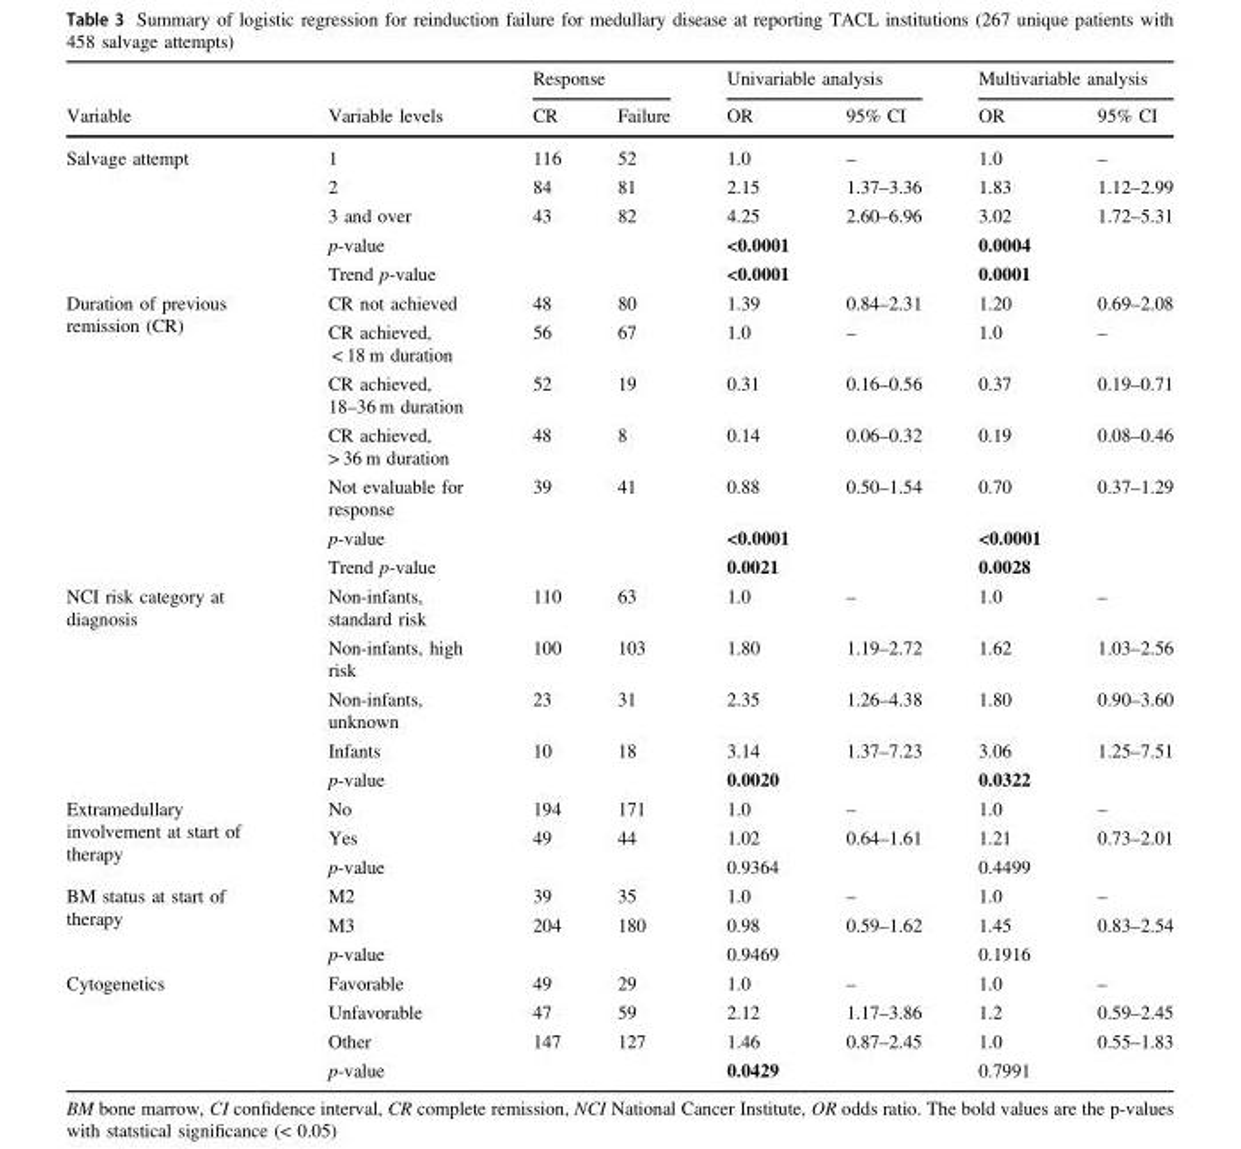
<table><thead><tr><td rowspan="2">Variable</td><td rowspan="2">Variable levels</td><td colspan="2">Response</td><td colspan="2">Univariable analysis</td><td colspan="2">Multivariable analysis</td></tr><tr><td>CR</td><td>Failure</td><td>OR</td><td>95% CI</td><td>OR</td><td>95% CI</td></tr></thead><tbody><tr><td rowspan="5">Salvage attempt</td><td>1</td><td>116</td><td>52</td><td>1.0</td><td>–</td><td>1.0</td><td>–</td></tr><tr><td>2</td><td>84</td><td>81</td><td>2.15</td><td>1.37–3.36</td><td>1.83</td><td>1.12–2.99</td></tr><tr><td>3 and over</td><td>43</td><td>82</td><td>4.25</td><td>2.60–6.96</td><td>3.02</td><td>1.72–5.31</td></tr><tr><td>p-value</td><td></td><td></td><td>&lt;0.0001</td><td></td><td>0.0004</td><td></td></tr><tr><td>Trend p-value</td><td></td><td></td><td>&lt;0.0001</td><td></td><td>0.0001</td><td></td></tr><tr><td rowspan="7">Duration of previous remission (CR)</td><td>CR not achieved</td><td>48</td><td>80</td><td>1.39</td><td>0.84–2.31</td><td>1.20</td><td>0.69–2.08</td></tr><tr><td>CR achieved, &lt; 18 m duration</td><td>56</td><td>67</td><td>1.0</td><td>–</td><td>1.0</td><td>–</td></tr><tr><td>CR achieved, 18–36 m duration</td><td>52</td><td>19</td><td>0.31</td><td>0.16–0.56</td><td>0.37</td><td>0.19–0.71</td></tr><tr><td>CR achieved, &gt; 36 m duration</td><td>48</td><td>8</td><td>0.14</td><td>0.06–0.32</td><td>0.19</td><td>0.08–0.46</td></tr><tr><td>Not evaluable for response</td><td>39</td><td>41</td><td>0.88</td><td>0.50–1.54</td><td>0.70</td><td>0.37–1.29</td></tr><tr><td>p-value</td><td></td><td></td><td>&lt;0.0001</td><td></td><td>&lt;0.0001</td><td></td></tr><tr><td>Trend p-value</td><td></td><td></td><td>0.0021</td><td></td><td>0.0028</td><td></td></tr><tr><td rowspan="5">NCI risk category at diagnosis</td><td>Non-infants, standard risk</td><td>110</td><td>63</td><td>1.0</td><td>–</td><td>1.0</td><td>–</td></tr><tr><td>Non-infants, high risk</td><td>100</td><td>103</td><td>1.80</td><td>1.19–2.72</td><td>1.62</td><td>1.03–2.56</td></tr><tr><td>Non-infants, unknown</td><td>23</td><td>31</td><td>2.35</td><td>1.26–4.38</td><td>1.80</td><td>0.90–3.60</td></tr><tr><td>Infants</td><td>10</td><td>18</td><td>3.14</td><td>1.37–7.23</td><td>3.06</td><td>1.25–7.51</td></tr><tr><td>p-value</td><td></td><td></td><td>0.0020</td><td></td><td>0.0322</td><td></td></tr><tr><td rowspan="3">Extramedullary involvement at start of therapy</td><td>No</td><td>194</td><td>171</td><td>1.0</td><td>–</td><td>1.0</td><td>–</td></tr><tr><td>Yes</td><td>49</td><td>44</td><td>1.02</td><td>0.64–1.61</td><td>1.21</td><td>0.73–2.01</td></tr><tr><td>p-value</td><td></td><td></td><td>0.9364</td><td></td><td>0.4499</td><td></td></tr><tr><td rowspan="3">BM status at start of therapy</td><td>M2</td><td>39</td><td>35</td><td>1.0</td><td>–</td><td>1.0</td><td>–</td></tr><tr><td>M3</td><td>204</td><td>180</td><td>0.98</td><td>0.59–1.62</td><td>1.45</td><td>0.83–2.54</td></tr><tr><td>p-value</td><td></td><td></td><td>0.9469</td><td></td><td>0.1916</td><td></td></tr><tr><td rowspan="4">Cytogenetics</td><td>Favorable</td><td>49</td><td>29</td><td>1.0</td><td>–</td><td>1.0</td><td>–</td></tr><tr><td>Unfavorable</td><td>47</td><td>59</td><td>2.12</td><td>1.17–3.86</td><td>1.2</td><td>0.59–2.45</td></tr><tr><td>Other</td><td>147</td><td>127</td><td>1.46</td><td>0.87–2.45</td><td>1.0</td><td>0.55–1.83</td></tr><tr><td>p-value</td><td></td><td></td><td>0.0429</td><td></td><td>0.7991</td><td></td></tr></tbody></table>